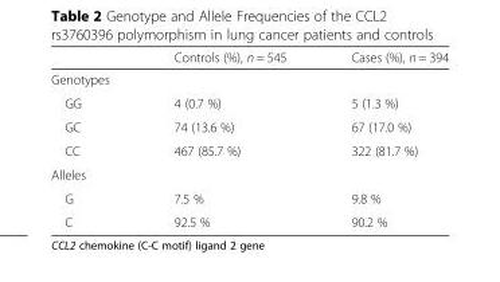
<table><thead><tr><td></td><td>Controls (%), n = 545</td><td>Cases (%), n = 394</td></tr></thead><tbody><tr><td colspan="3">Genotypes</td></tr><tr><td>GG</td><td>4 (0.7 %)</td><td>5 (1.3 %)</td></tr><tr><td>GC</td><td>74 (13.6 %)</td><td>67 (17.0 %)</td></tr><tr><td>CC</td><td>467 (85.7 %)</td><td>322 (81.7 %)</td></tr><tr><td colspan="3">Alleles</td></tr><tr><td>G</td><td>7.5 %</td><td>9.8 %</td></tr><tr><td>C</td><td>92.5 %</td><td>90.2 %</td></tr></tbody></table>